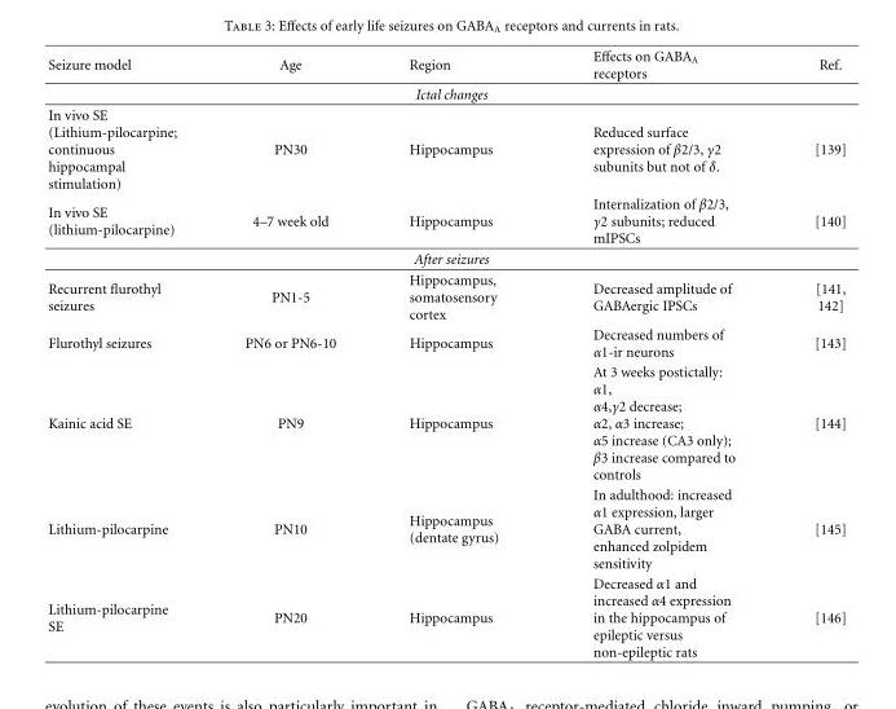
<table><thead><tr><td>Seizure model</td><td>Age</td><td>Region</td><td>Effects on GABA<sub>A</sub> receptors</td><td>Ref.</td></tr></thead><tbody><tr><td colspan="5">Ictal changes</td></tr><tr><td>In vivo SE (Lithium-pilocarpine; continuous hippocampal stimulation)</td><td>PN30</td><td>Hippocampus</td><td>Reduced surface expression of β2/3, γ2 subunits but not of δ.</td><td>[139]</td></tr><tr><td>In vivo SE (lithium-pilocarpine)</td><td>4–7 week old</td><td>Hippocampus</td><td>Internalization of β2/3, γ2 subunits; reduced mIPSCs</td><td>[140]</td></tr><tr><td colspan="5">After seizures</td></tr><tr><td>Recurrent flurothyl seizures</td><td>PN1-5</td><td>Hippocampus, somatosensory cortex</td><td>Decreased amplitude of GABAergic IPSCs</td><td>[141, 142]</td></tr><tr><td>Flurothyl seizures</td><td>PN6 or PN6-10</td><td>Hippocampus</td><td>Decreased numbers of α1-ir neurons</td><td>[143]</td></tr><tr><td>Kainic acid SE</td><td>PN9</td><td>Hippocampus</td><td>At 3 weeks postictally: α1, α4,γ2 decrease; α2, α3 increase; α5 increase (CA3 only); β3 increase compared to controls</td><td>[144]</td></tr><tr><td>Lithium-pilocarpine</td><td>PN10</td><td>Hippocampus (dentate gyrus)</td><td>In adulthood: increased α1 expression, larger GABA current, enhanced zolpidem sensitivity</td><td>[145]</td></tr><tr><td>Lithium-pilocarpine SE</td><td>PN20</td><td>Hippocampus</td><td>Decreased α1 and increased α4 expression in the hippocampus of epileptic versus non-epileptic rats</td><td>[146]</td></tr></tbody></table>